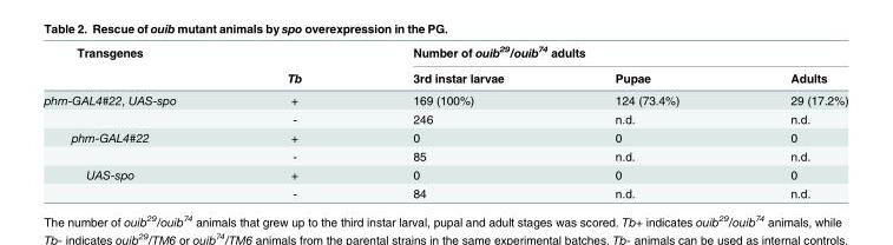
<table><thead><tr><td rowspan="2">Transgenes</td><td rowspan="2">Tb</td><td colspan="3">Number of ouib<sup>29</sup>/ouib<sup>74</sup> adults</td></tr><tr><td>3rd instar larvae</td><td>Pupae</td><td>Adults</td></tr></thead><tbody><tr><td rowspan="2">phm-GAL4#22, UAS-spo</td><td>+</td><td>169 (100%)</td><td>124 (73.4%)</td><td>29 (17.2%)</td></tr><tr><td>-</td><td>246</td><td>n.d.</td><td>n.d.</td></tr><tr><td rowspan="2">phm-GAL4#22</td><td>+</td><td>0</td><td>0</td><td>0</td></tr><tr><td>-</td><td>85</td><td>n.d.</td><td>n.d.</td></tr><tr><td rowspan="2">UAS-spo</td><td>+</td><td>0</td><td>0</td><td>0</td></tr><tr><td>-</td><td>84</td><td>n.d.</td><td>n.d.</td></tr></tbody></table>